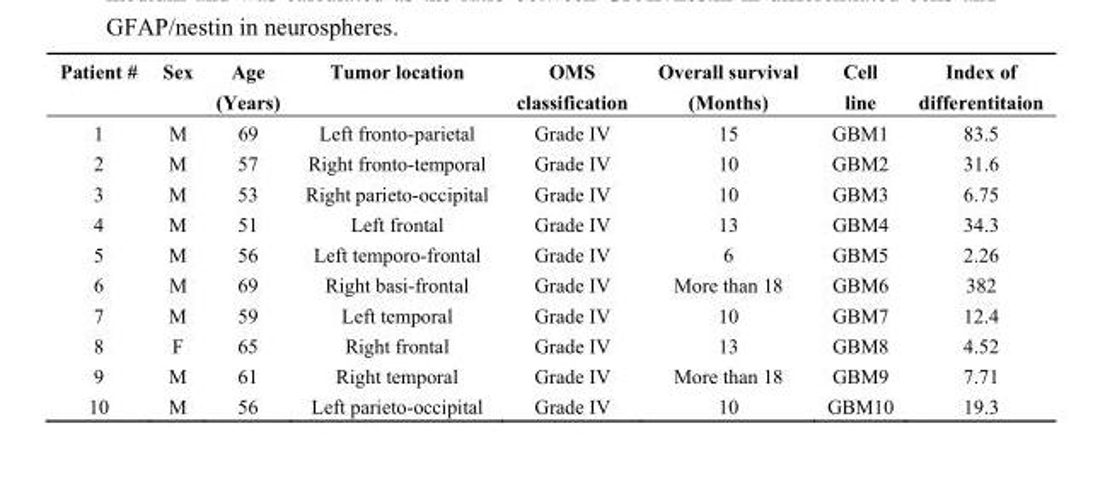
<table><thead><tr><td>Patient #</td><td>Sex</td><td>Age (Years)</td><td>Tumor location</td><td>OMS classification</td><td>Overall survival (Months)</td><td>Cell line</td><td>Index of differentitaion</td></tr></thead><tbody><tr><td>1</td><td>M</td><td>69</td><td>Left fronto-parietal</td><td>Grade IV</td><td>15</td><td>GBM1</td><td>83.5</td></tr><tr><td>2</td><td>M</td><td>57</td><td>Right fronto-temporal</td><td>Grade IV</td><td>10</td><td>GBM2</td><td>31.6</td></tr><tr><td>3</td><td>M</td><td>53</td><td>Right parieto-occipital</td><td>Grade IV</td><td>10</td><td>GBM3</td><td>6.75</td></tr><tr><td>4</td><td>M</td><td>51</td><td>Left frontal</td><td>Grade IV</td><td>13</td><td>GBM4</td><td>34.3</td></tr><tr><td>5</td><td>M</td><td>56</td><td>Left temporo-frontal</td><td>Grade IV</td><td>6</td><td>GBM5</td><td>2.26</td></tr><tr><td>6</td><td>M</td><td>69</td><td>Right basi-frontal</td><td>Grade IV</td><td>More than 18</td><td>GBM6</td><td>382</td></tr><tr><td>7</td><td>M</td><td>59</td><td>Left temporal</td><td>Grade IV</td><td>10</td><td>GBM7</td><td>12.4</td></tr><tr><td>8</td><td>F</td><td>65</td><td>Right frontal</td><td>Grade IV</td><td>13</td><td>GBM8</td><td>4.52</td></tr><tr><td>9</td><td>M</td><td>61</td><td>Right temporal</td><td>Grade IV</td><td>More than 18</td><td>GBM9</td><td>7.71</td></tr><tr><td>10</td><td>M</td><td>56</td><td>Left parieto-occipital</td><td>Grade IV</td><td>10</td><td>GBM10</td><td>19.3</td></tr></tbody></table>